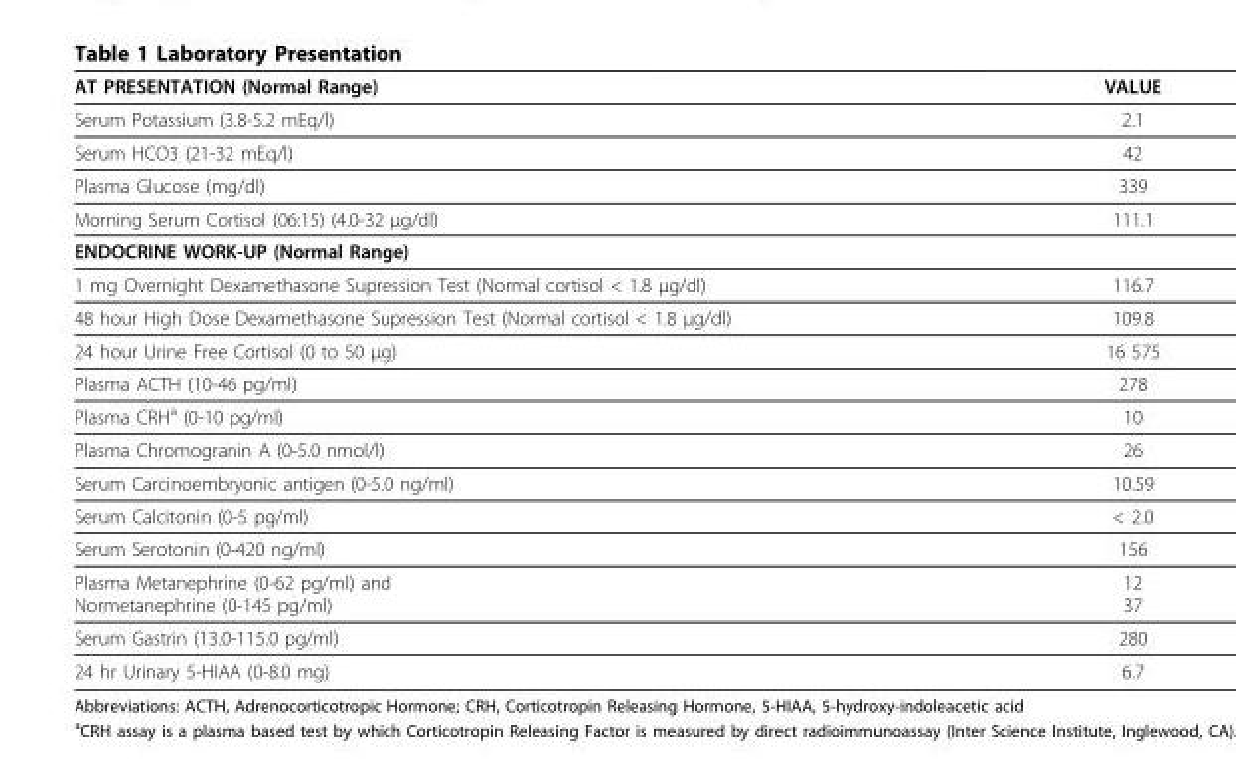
<table><thead><tr><td>AT PRESENTATION (Normal Range)</td><td>VALUE</td></tr></thead><tbody><tr><td>Serum Potassium (3.8-5.2 mEq/l)</td><td>2.1</td></tr><tr><td>Serum HCO3 (21-32 mEq/l)</td><td>42</td></tr><tr><td>Plasma Glucose (mg/dl)</td><td>339</td></tr><tr><td>Morning Serum Cortisol (06:15) (4.0-32 μg/dl)</td><td>111.1</td></tr><tr><td colspan="2">ENDOCRINE WORK-UP (Normal Range)</td></tr><tr><td>1 mg Overnight Dexamethasone Supression Test (Normal cortisol &lt; 1.8 μg/dl)</td><td>116.7</td></tr><tr><td>48 hour High Dose Dexamethasone Supression Test (Normal cortisol &lt; 1.8 μg/dl)</td><td>109.8</td></tr><tr><td>24 hour Urine Free Cortisol (0 to 50 μg)</td><td>16 575</td></tr><tr><td>Plasma ACTH (10-46 pg/ml)</td><td>278</td></tr><tr><td>Plasma CRH<sup>a</sup> (0-10 pg/ml)</td><td>10</td></tr><tr><td>Plasma Chromogranin A (0-5.0 nmol/l)</td><td>26</td></tr><tr><td>Serum Carcinoembryonic antigen (0-5.0 ng/ml)</td><td>10.59</td></tr><tr><td>Serum Calcitonin (0-5 pg/ml)</td><td>&lt; 2.0</td></tr><tr><td>Serum Serotonin (0-420 ng/ml)</td><td>156</td></tr><tr><td>Plasma Metanephrine (0-62 pg/ml) and Normetanephrine (0-145 pg/ml)</td><td>12 37</td></tr><tr><td>Serum Gastrin (13.0-115.0 pg/ml)</td><td>280</td></tr><tr><td>24 hr Urinary 5-HIAA (0-8.0 mg)</td><td>6.7</td></tr></tbody></table>